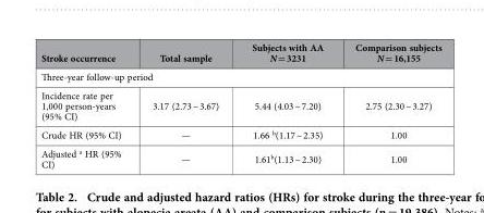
<table><thead><tr><td>Stroke occurrence</td><td>Total sample</td><td>Subjects with AA N = 3231</td><td>Comparison subjects N = 16,155</td></tr></thead><tbody><tr><td colspan="4">Three-year follow-up period</td></tr><tr><td>Incidence rate per 1,000 person-years (95% CI)</td><td>3.17 (2.73 ~ 3.67)</td><td>5.44 (4.03 ~ 7.20)</td><td>2.75 (2.30 ~ 3.27)</td></tr><tr><td>Crude HR (95% CI)</td><td>—</td><td>1.66 <sup>b</sup>(1.17 ~ 2.35)</td><td>1.00</td></tr><tr><td>Adjusted <sup>a</sup> HR (95% CI)</td><td>—</td><td>1.61<sup>b</sup>(1.13 ~ 2.30)</td><td>1.00</td></tr></tbody></table>